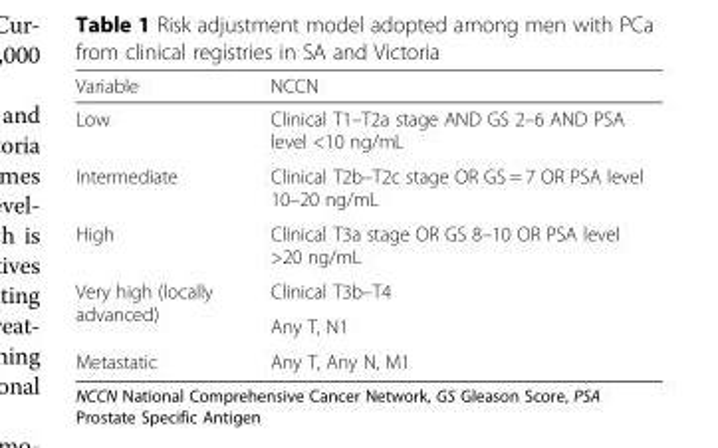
<table><thead><tr><td>Variable</td><td>NCCN</td></tr></thead><tbody><tr><td>Low</td><td>Clinical T1–T2a stage AND GS 2–6 AND PSA level &lt;10 ng/mL</td></tr><tr><td>Intermediate</td><td>Clinical T2b–T2c stage OR GS = 7 OR PSA level 10–20 ng/mL</td></tr><tr><td>High</td><td>Clinical T3a stage OR GS 8–10 OR PSA level &gt;20 ng/mL</td></tr><tr><td rowspan="2">Very high (locally advanced)</td><td>Clinical T3b–T4</td></tr><tr><td>Any T, N1</td></tr><tr><td>Metastatic</td><td>Any T, Any N, M1</td></tr></tbody></table>